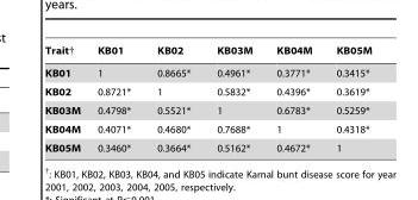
<table><thead><tr><td>Trait†</td><td>KB01</td><td>KB02</td><td>KB03M</td><td>KB04M</td><td>KB05M</td></tr></thead><tbody><tr><td>KB01</td><td>1</td><td>0.8665*</td><td>0.4961*</td><td>0.3771*</td><td>0.3415*</td></tr><tr><td>KB02</td><td>0.8721*</td><td>1</td><td>0.5832*</td><td>0.4396*</td><td>0.3619*</td></tr><tr><td>KB03M</td><td>0.4798*</td><td>0.5521*</td><td>1</td><td>0.6783*</td><td>0.5259*</td></tr><tr><td>KB04M</td><td>0.4071*</td><td>0.4680*</td><td>0.7688*</td><td>1</td><td>0.4318*</td></tr><tr><td>KB05M</td><td>0.3460*</td><td>0.3664*</td><td>0.5162*</td><td>0.4672*</td><td>1</td></tr></tbody></table>